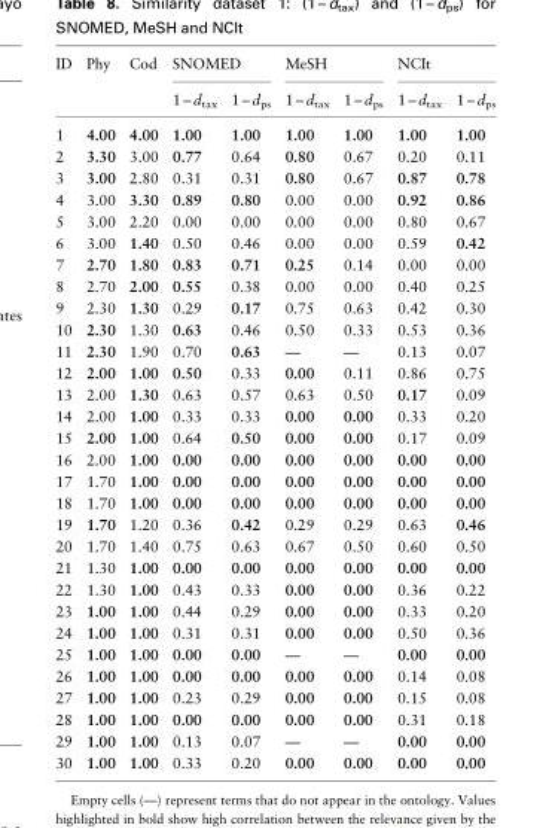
<table><thead><tr><td rowspan="2">ID</td><td rowspan="2">Phy</td><td rowspan="2">Cod</td><td colspan="2">SNOMED</td><td colspan="2">MeSH</td><td colspan="2">NCIt</td></tr><tr><td>1 – d<sub>tax</sub></td><td>1 – d<sub>ps</sub></td><td>1 – d<sub>tax</sub></td><td>1 – d<sub>ps</sub></td><td>1 – d<sub>tax</sub></td><td>1 – d<sub>ps</sub></td></tr></thead><tbody><tr><td>1</td><td>4.00</td><td>4.00</td><td>1.00</td><td>1.00</td><td>1.00</td><td>1.00</td><td>1.00</td><td>1.00</td></tr><tr><td>2</td><td>3.30</td><td>3.00</td><td>0.77</td><td>0.64</td><td>0.80</td><td>0.67</td><td>0.20</td><td>0.11</td></tr><tr><td>3</td><td>3.00</td><td>2.80</td><td>0.31</td><td>0.31</td><td>0.80</td><td>0.67</td><td>0.87</td><td>0.78</td></tr><tr><td>4</td><td>3.00</td><td>3.30</td><td>0.89</td><td>0.80</td><td>0.00</td><td>0.00</td><td>0.92</td><td>0.86</td></tr><tr><td>5</td><td>3.00</td><td>2.20</td><td>0.00</td><td>0.00</td><td>0.00</td><td>0.00</td><td>0.80</td><td>0.67</td></tr><tr><td>6</td><td>3.00</td><td>1.40</td><td>0.50</td><td>0.46</td><td>0.00</td><td>0.00</td><td>0.59</td><td>0.42</td></tr><tr><td>7</td><td>2.70</td><td>1.80</td><td>0.83</td><td>0.71</td><td>0.25</td><td>0.14</td><td>0.00</td><td>0.00</td></tr><tr><td>8</td><td>2.70</td><td>2.00</td><td>0.55</td><td>0.38</td><td>0.00</td><td>0.00</td><td>0.40</td><td>0.25</td></tr><tr><td>9</td><td>2.30</td><td>1.30</td><td>0.29</td><td>0.17</td><td>0.75</td><td>0.63</td><td>0.42</td><td>0.30</td></tr><tr><td>10</td><td>2.30</td><td>1.30</td><td>0.63</td><td>0.46</td><td>0.50</td><td>0.33</td><td>0.53</td><td>0.36</td></tr><tr><td>11</td><td>2.30</td><td>1.90</td><td>0.70</td><td>0.63</td><td>—</td><td>—</td><td>0.13</td><td>0.07</td></tr><tr><td>12</td><td>2.00</td><td>1.00</td><td>0.50</td><td>0.33</td><td>0.00</td><td>0.11</td><td>0.86</td><td>0.75</td></tr><tr><td>13</td><td>2.00</td><td>1.30</td><td>0.63</td><td>0.57</td><td>0.63</td><td>0.50</td><td>0.17</td><td>0.09</td></tr><tr><td>14</td><td>2.00</td><td>1.00</td><td>0.33</td><td>0.33</td><td>0.00</td><td>0.00</td><td>0.33</td><td>0.20</td></tr><tr><td>15</td><td>2.00</td><td>1.00</td><td>0.64</td><td>0.50</td><td>0.00</td><td>0.00</td><td>0.17</td><td>0.09</td></tr><tr><td>16</td><td>2.00</td><td>1.00</td><td>0.00</td><td>0.00</td><td>0.00</td><td>0.00</td><td>0.00</td><td>0.00</td></tr><tr><td>17</td><td>1.70</td><td>1.00</td><td>0.00</td><td>0.00</td><td>0.00</td><td>0.00</td><td>0.00</td><td>0.00</td></tr><tr><td>18</td><td>1.70</td><td>1.00</td><td>0.00</td><td>0.00</td><td>0.00</td><td>0.00</td><td>0.00</td><td>0.00</td></tr><tr><td>19</td><td>1.70</td><td>1.20</td><td>0.36</td><td>0.42</td><td>0.29</td><td>0.29</td><td>0.63</td><td>0.46</td></tr><tr><td>20</td><td>1.70</td><td>1.40</td><td>0.75</td><td>0.63</td><td>0.67</td><td>0.50</td><td>0.60</td><td>0.50</td></tr><tr><td>21</td><td>1.30</td><td>1.00</td><td>0.00</td><td>0.00</td><td>0.00</td><td>0.00</td><td>0.00</td><td>0.00</td></tr><tr><td>22</td><td>1.30</td><td>1.00</td><td>0.43</td><td>0.33</td><td>0.00</td><td>0.00</td><td>0.36</td><td>0.22</td></tr><tr><td>23</td><td>1.00</td><td>1.00</td><td>0.44</td><td>0.29</td><td>0.00</td><td>0.00</td><td>0.33</td><td>0.20</td></tr><tr><td>24</td><td>1.00</td><td>1.00</td><td>0.31</td><td>0.31</td><td>0.00</td><td>0.00</td><td>0.50</td><td>0.36</td></tr><tr><td>25</td><td>1.00</td><td>1.00</td><td>0.00</td><td>0.00</td><td>—</td><td>—</td><td>0.00</td><td>0.00</td></tr><tr><td>26</td><td>1.00</td><td>1.00</td><td>0.00</td><td>0.00</td><td>0.00</td><td>0.00</td><td>0.14</td><td>0.08</td></tr><tr><td>27</td><td>1.00</td><td>1.00</td><td>0.23</td><td>0.29</td><td>0.00</td><td>0.00</td><td>0.15</td><td>0.08</td></tr><tr><td>28</td><td>1.00</td><td>1.00</td><td>0.00</td><td>0.00</td><td>0.00</td><td>0.00</td><td>0.31</td><td>0.18</td></tr><tr><td>29</td><td>1.00</td><td>1.00</td><td>0.13</td><td>0.07</td><td>—</td><td>—</td><td>0.00</td><td>0.00</td></tr><tr><td>30</td><td>1.00</td><td>1.00</td><td>0.33</td><td>0.20</td><td>0.00</td><td>0.00</td><td>0.00</td><td>0.00</td></tr></tbody></table>